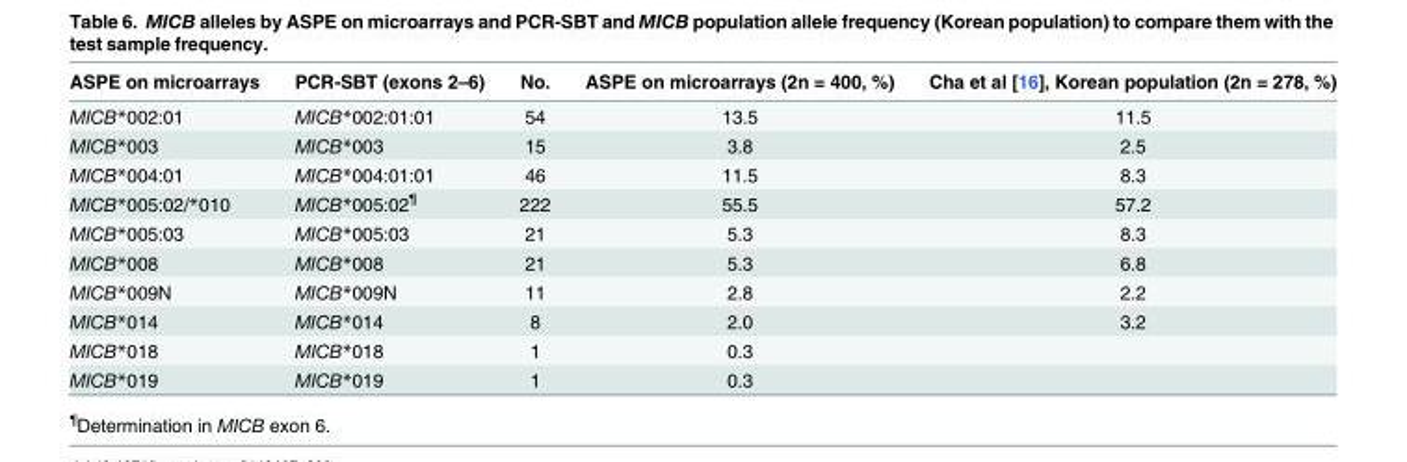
<table><thead><tr><td>ASPE on microarrays</td><td>PCR-SBT (exons 2–6)</td><td>No.</td><td>ASPE on microarrays (2n = 400, %)</td><td>Cha et al [16], Korean population (2n = 278, %)</td></tr></thead><tbody><tr><td>MICB*002:01</td><td>MICB*002:01:01</td><td>54</td><td>13.5</td><td>11.5</td></tr><tr><td>MICB*003</td><td>MICB*003</td><td>15</td><td>3.8</td><td>2.5</td></tr><tr><td>MICB*004:01</td><td>MICB*004:01:01</td><td>46</td><td>11.5</td><td>8.3</td></tr><tr><td>MICB*005:02/*010</td><td>MICB*005:02<sup>¶</sup></td><td>222</td><td>55.5</td><td>57.2</td></tr><tr><td>MICB*005:03</td><td>MICB*005:03</td><td>21</td><td>5.3</td><td>8.3</td></tr><tr><td>MICB*008</td><td>MICB*008</td><td>21</td><td>5.3</td><td>6.8</td></tr><tr><td>MICB*009N</td><td>MICB*009N</td><td>11</td><td>2.8</td><td>2.2</td></tr><tr><td>MICB*014</td><td>MICB*014</td><td>8</td><td>2.0</td><td>3.2</td></tr><tr><td>MICB*018</td><td>MICB*018</td><td>1</td><td>0.3</td><td></td></tr><tr><td>MICB*019</td><td>MICB*019</td><td>1</td><td>0.3</td><td></td></tr></tbody></table>